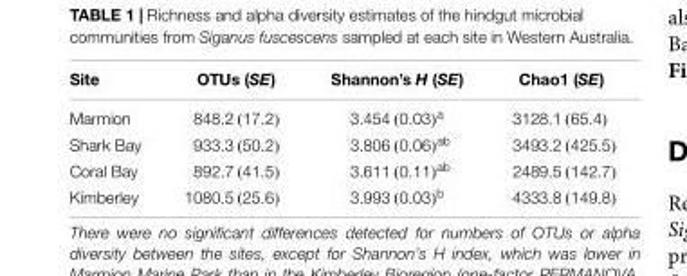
<table><thead><tr><td>Site</td><td>OTUs (SE)</td><td>Shannon’s H (SE)</td><td>Chao1 (SE)</td></tr></thead><tbody><tr><td>Marmion</td><td>848.2 (17.2)</td><td>3.454 (0.03)a</td><td>3128.1 (65.4)</td></tr><tr><td>Shark Bay</td><td>933.3 (50.2)</td><td>3.806 (0.06)ab</td><td>3493.2 (425.5)</td></tr><tr><td>Coral Bay</td><td>892.7 (41.5)</td><td>3.611 (0.11)ab</td><td>2489.5 (142.7)</td></tr><tr><td>Kimberley</td><td>1080.5 (25.6)</td><td>3.993 (0.03)b</td><td>4333.8 (149.8)</td></tr></tbody></table>